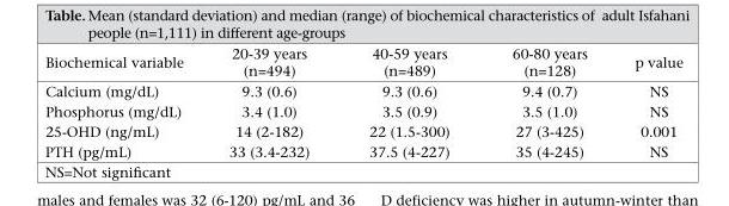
<table><thead><tr><td>Biochemical variable</td><td>20-39 years (n=494)</td><td>40-59 years (n=489)</td><td>60-80 years (n=128)</td><td>p value</td></tr></thead><tbody><tr><td>Calcium (mg/dL)</td><td>9.3 (0.6)</td><td>9.3 (0.6)</td><td>9.4 (0.7)</td><td>NS</td></tr><tr><td>Phosphorus (mg/dL)</td><td>3.4 (1.0)</td><td>3.5 (0.9)</td><td>3.5 (1.0)</td><td>NS</td></tr><tr><td>25-OHD (ng/mL)</td><td>14 (2-182)</td><td>22 (1.5-300)</td><td>27 (3-425)</td><td>0.001</td></tr><tr><td>PTH (pg/mL)</td><td>33 (3.4-232)</td><td>37.5 (4-227)</td><td>35 (4-245)</td><td>NS</td></tr></tbody></table>